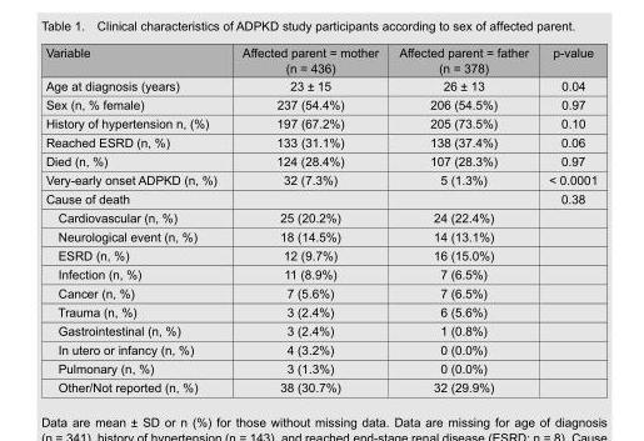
<table><thead><tr><td>Variable</td><td>Affected parent = mother (n = 436)</td><td>Affected parent = father (n = 378)</td><td>p-value</td></tr></thead><tbody><tr><td>Age at diagnosis (years)</td><td>23 ± 15</td><td>26 ± 13</td><td>0.04</td></tr><tr><td>Sex (n, % female)</td><td>237 (54.4%)</td><td>206 (54.5%)</td><td>0.97</td></tr><tr><td>History of hypertension n, (%)</td><td>197 (67.2%)</td><td>205 (73.5%)</td><td>0.10</td></tr><tr><td>Reached ESRD (n, %)</td><td>133 (31.1%)</td><td>138 (37.4%)</td><td>0.06</td></tr><tr><td>Died (n, %)</td><td>124 (28.4%)</td><td>107 (28.3%)</td><td>0.97</td></tr><tr><td>Very-early onset ADPKD (n, %)</td><td>32 (7.3%)</td><td>5 (1.3%)</td><td>&lt; 0.0001</td></tr><tr><td>Cause of death</td><td></td><td></td><td>0.38</td></tr><tr><td>Cardiovascular (n, %)</td><td>25 (20.2%)</td><td>24 (22.4%)</td><td></td></tr><tr><td>Neurological event (n, %)</td><td>18 (14.5%)</td><td>14 (13.1%)</td><td></td></tr><tr><td>ESRD (n, %)</td><td>12 (9.7%)</td><td>16 (15.0%)</td><td></td></tr><tr><td>Infection (n, %)</td><td>11 (8.9%)</td><td>7 (6.5%)</td><td></td></tr><tr><td>Cancer (n, %)</td><td>7 (5.6%)</td><td>7 (6.5%)</td><td></td></tr><tr><td>Trauma (n, %)</td><td>3 (2.4%)</td><td>6 (5.6%)</td><td></td></tr><tr><td>Gastrointestinal (n, %)</td><td>3 (2.4%)</td><td>1 (0.8%)</td><td></td></tr><tr><td>In utero or infancy (n, %)</td><td>4 (3.2%)</td><td>0 (0.0%)</td><td></td></tr><tr><td>Pulmonary (n, %)</td><td>3 (1.3%)</td><td>0 (0.0%)</td><td></td></tr><tr><td>Other/Not reported (n, %)</td><td>38 (30.7%)</td><td>32 (29.9%)</td><td></td></tr></tbody></table>